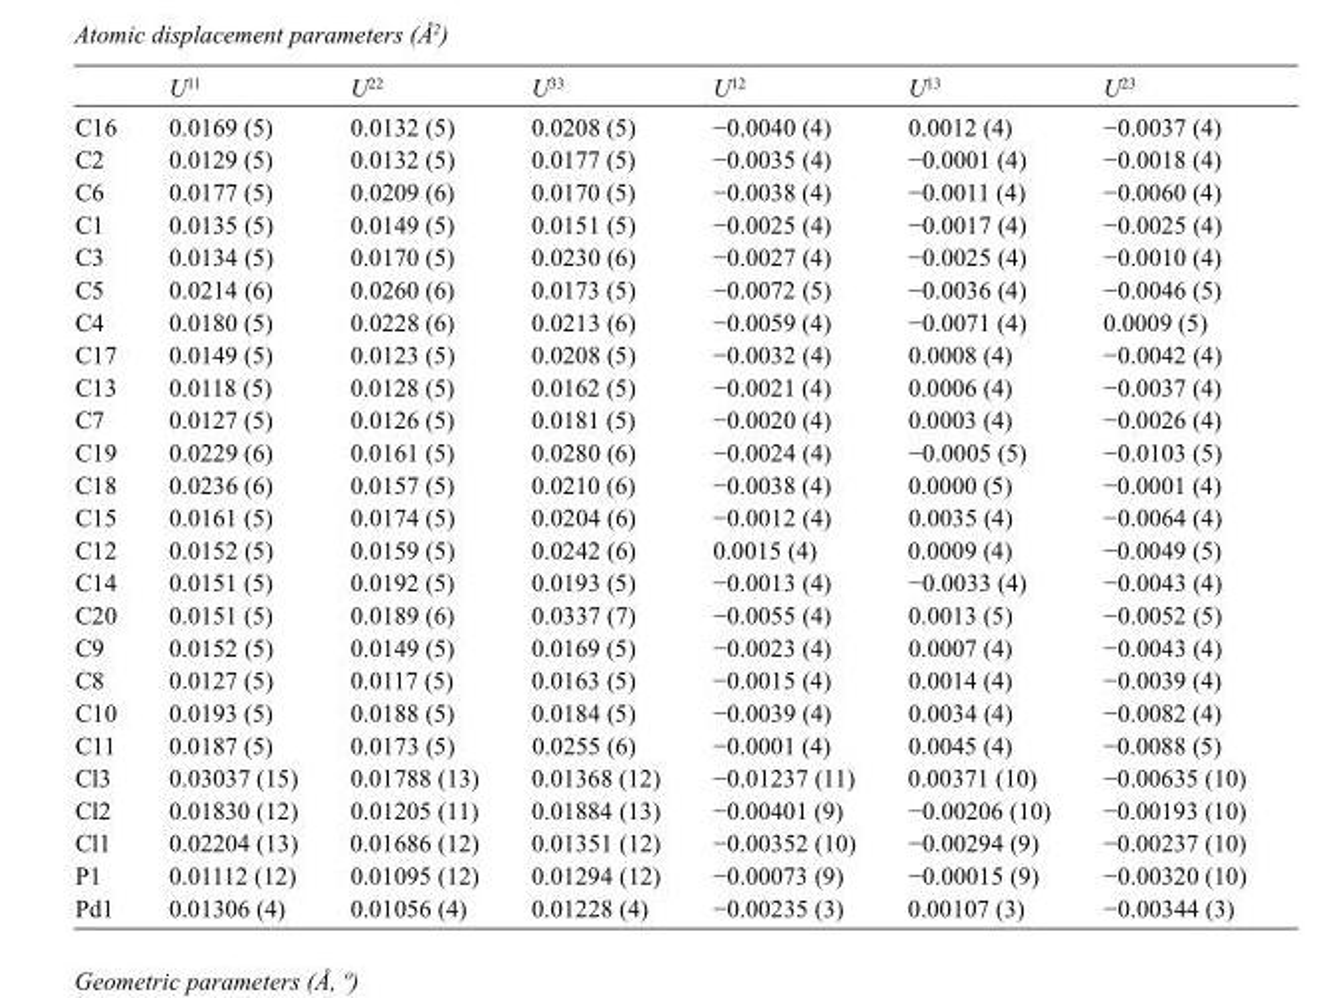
<table><thead><tr><td></td><td>U<sup>11</sup></td><td>U<sup>22</sup></td><td>U<sup>33</sup></td><td>U<sup>12</sup></td><td>U<sup>13</sup></td><td>U<sup>23</sup></td></tr></thead><tbody><tr><td>C16</td><td>0.0169 (5)</td><td>0.0132 (5)</td><td>0.0208 (5)</td><td>−0.0040 (4)</td><td>0.0012 (4)</td><td>−0.0037 (4)</td></tr><tr><td>C2</td><td>0.0129 (5)</td><td>0.0132 (5)</td><td>0.0177 (5)</td><td>−0.0035 (4)</td><td>−0.0001 (4)</td><td>−0.0018 (4)</td></tr><tr><td>C6</td><td>0.0177 (5)</td><td>0.0209 (6)</td><td>0.0170 (5)</td><td>−0.0038 (4)</td><td>−0.0011 (4)</td><td>−0.0060 (4)</td></tr><tr><td>C1</td><td>0.0135 (5)</td><td>0.0149 (5)</td><td>0.0151 (5)</td><td>−0.0025 (4)</td><td>−0.0017 (4)</td><td>−0.0025 (4)</td></tr><tr><td>C3</td><td>0.0134 (5)</td><td>0.0170 (5)</td><td>0.0230 (6)</td><td>−0.0027 (4)</td><td>−0.0025 (4)</td><td>−0.0010 (4)</td></tr><tr><td>C5</td><td>0.0214 (6)</td><td>0.0260 (6)</td><td>0.0173 (5)</td><td>−0.0072 (5)</td><td>−0.0036 (4)</td><td>−0.0046 (5)</td></tr><tr><td>C4</td><td>0.0180 (5)</td><td>0.0228 (6)</td><td>0.0213 (6)</td><td>−0.0059 (4)</td><td>−0.0071 (4)</td><td>0.0009 (5)</td></tr><tr><td>C17</td><td>0.0149 (5)</td><td>0.0123 (5)</td><td>0.0208 (5)</td><td>−0.0032 (4)</td><td>0.0008 (4)</td><td>−0.0042 (4)</td></tr><tr><td>C13</td><td>0.0118 (5)</td><td>0.0128 (5)</td><td>0.0162 (5)</td><td>−0.0021 (4)</td><td>0.0006 (4)</td><td>−0.0037 (4)</td></tr><tr><td>C7</td><td>0.0127 (5)</td><td>0.0126 (5)</td><td>0.0181 (5)</td><td>−0.0020 (4)</td><td>0.0003 (4)</td><td>−0.0026 (4)</td></tr><tr><td>C19</td><td>0.0229 (6)</td><td>0.0161 (5)</td><td>0.0280 (6)</td><td>−0.0024 (4)</td><td>−0.0005 (5)</td><td>−0.0103 (5)</td></tr><tr><td>C18</td><td>0.0236 (6)</td><td>0.0157 (5)</td><td>0.0210 (6)</td><td>−0.0038 (4)</td><td>0.0000 (5)</td><td>−0.0001 (4)</td></tr><tr><td>C15</td><td>0.0161 (5)</td><td>0.0174 (5)</td><td>0.0204 (6)</td><td>−0.0012 (4)</td><td>0.0035 (4)</td><td>−0.0064 (4)</td></tr><tr><td>C12</td><td>0.0152 (5)</td><td>0.0159 (5)</td><td>0.0242 (6)</td><td>0.0015 (4)</td><td>0.0009 (4)</td><td>−0.0049 (5)</td></tr><tr><td>C14</td><td>0.0151 (5)</td><td>0.0192 (5)</td><td>0.0193 (5)</td><td>−0.0013 (4)</td><td>−0.0033 (4)</td><td>−0.0043 (4)</td></tr><tr><td>C20</td><td>0.0151 (5)</td><td>0.0189 (6)</td><td>0.0337 (7)</td><td>−0.0055 (4)</td><td>0.0013 (5)</td><td>−0.0052 (5)</td></tr><tr><td>C9</td><td>0.0152 (5)</td><td>0.0149 (5)</td><td>0.0169 (5)</td><td>−0.0023 (4)</td><td>0.0007 (4)</td><td>−0.0043 (4)</td></tr><tr><td>C8</td><td>0.0127 (5)</td><td>0.0117 (5)</td><td>0.0163 (5)</td><td>−0.0015 (4)</td><td>0.0014 (4)</td><td>−0.0039 (4)</td></tr><tr><td>C10</td><td>0.0193 (5)</td><td>0.0188 (5)</td><td>0.0184 (5)</td><td>−0.0039 (4)</td><td>0.0034 (4)</td><td>−0.0082 (4)</td></tr><tr><td>C11</td><td>0.0187 (5)</td><td>0.0173 (5)</td><td>0.0255 (6)</td><td>−0.0001 (4)</td><td>0.0045 (4)</td><td>−0.0088 (5)</td></tr><tr><td>Cl3</td><td>0.03037 (15)</td><td>0.01788 (13)</td><td>0.01368 (12)</td><td>−0.01237 (11)</td><td>0.00371 (10)</td><td>−0.00635 (10)</td></tr><tr><td>Cl2</td><td>0.01830 (12)</td><td>0.01205 (11)</td><td>0.01884 (13)</td><td>−0.00401 (9)</td><td>−0.00206 (10)</td><td>−0.00193 (10)</td></tr><tr><td>Cl1</td><td>0.02204 (13)</td><td>0.01686 (12)</td><td>0.01351 (12)</td><td>−0.00352 (10)</td><td>−0.00294 (9)</td><td>−0.00237 (10)</td></tr><tr><td>P1</td><td>0.01112 (12)</td><td>0.01095 (12)</td><td>0.01294 (12)</td><td>−0.00073 (9)</td><td>−0.00015 (9)</td><td>−0.00320 (10)</td></tr><tr><td>Pd1</td><td>0.01306 (4)</td><td>0.01056 (4)</td><td>0.01228 (4)</td><td>−0.00235 (3)</td><td>0.00107 (3)</td><td>−0.00344 (3)</td></tr></tbody></table>